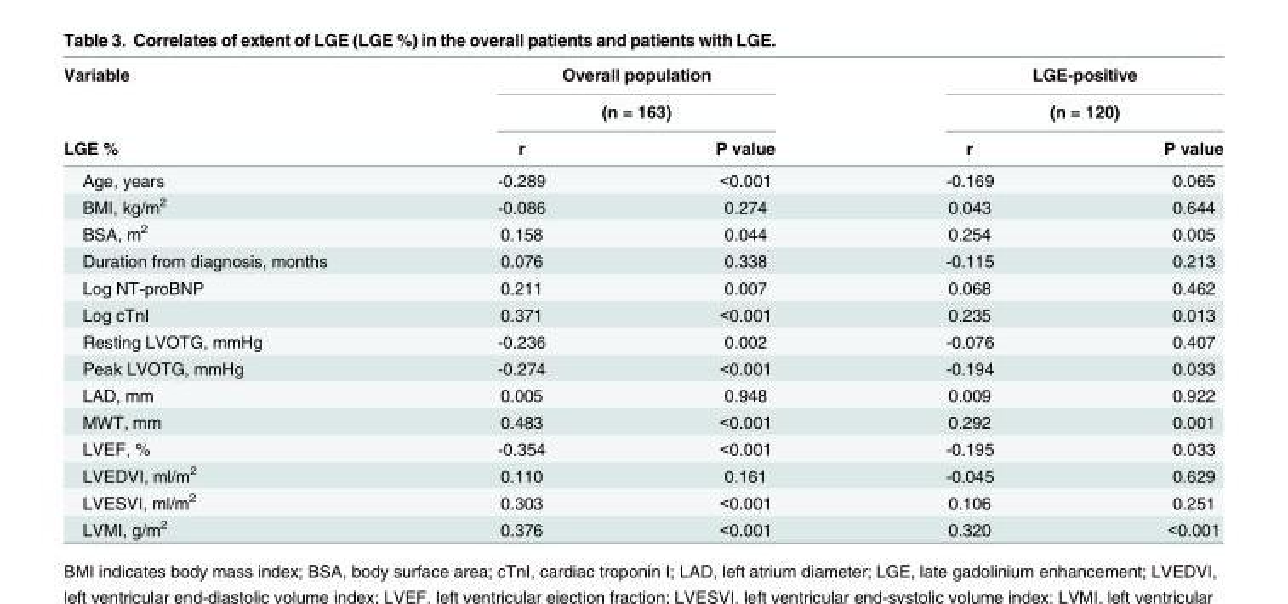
<table><thead><tr><td rowspan="3">Variable LGE %</td><td rowspan="2" colspan="2">Overall population (n = 163)</td><td rowspan="2" colspan="2">LGE-positive (n = 120)</td></tr><tr></tr><tr><td>r</td><td>P value</td><td>r</td><td>P value</td></tr></thead><tbody><tr><td>Age, years</td><td>-0.289</td><td>&lt;0.001</td><td>-0.169</td><td>0.065</td></tr><tr><td>BMI, kg/m<sup>2</sup></td><td>-0.086</td><td>0.274</td><td>0.043</td><td>0.644</td></tr><tr><td>BSA, m<sup>2</sup></td><td>0.158</td><td>0.044</td><td>0.254</td><td>0.005</td></tr><tr><td>Duration from diagnosis, months</td><td>0.076</td><td>0.338</td><td>-0.115</td><td>0.213</td></tr><tr><td>Log NT-proBNP</td><td>0.211</td><td>0.007</td><td>0.068</td><td>0.462</td></tr><tr><td>Log cTnI</td><td>0.371</td><td>&lt;0.001</td><td>0.235</td><td>0.013</td></tr><tr><td>Resting LVOTG, mmHg</td><td>-0.236</td><td>0.002</td><td>-0.076</td><td>0.407</td></tr><tr><td>Peak LVOTG, mmHg</td><td>-0.274</td><td>&lt;0.001</td><td>-0.194</td><td>0.033</td></tr><tr><td>LAD, mm</td><td>0.005</td><td>0.948</td><td>0.009</td><td>0.922</td></tr><tr><td>MWT, mm</td><td>0.483</td><td>&lt;0.001</td><td>0.292</td><td>0.001</td></tr><tr><td>LVEF, %</td><td>-0.354</td><td>&lt;0.001</td><td>-0.195</td><td>0.033</td></tr><tr><td>LVEDVI, ml/m<sup>2</sup></td><td>0.110</td><td>0.161</td><td>-0.045</td><td>0.629</td></tr><tr><td>LVESVI, ml/m<sup>2</sup></td><td>0.303</td><td>&lt;0.001</td><td>0.106</td><td>0.251</td></tr><tr><td>LVMI, g/m<sup>2</sup></td><td>0.376</td><td>&lt;0.001</td><td>0.320</td><td>&lt;0.001</td></tr></tbody></table>